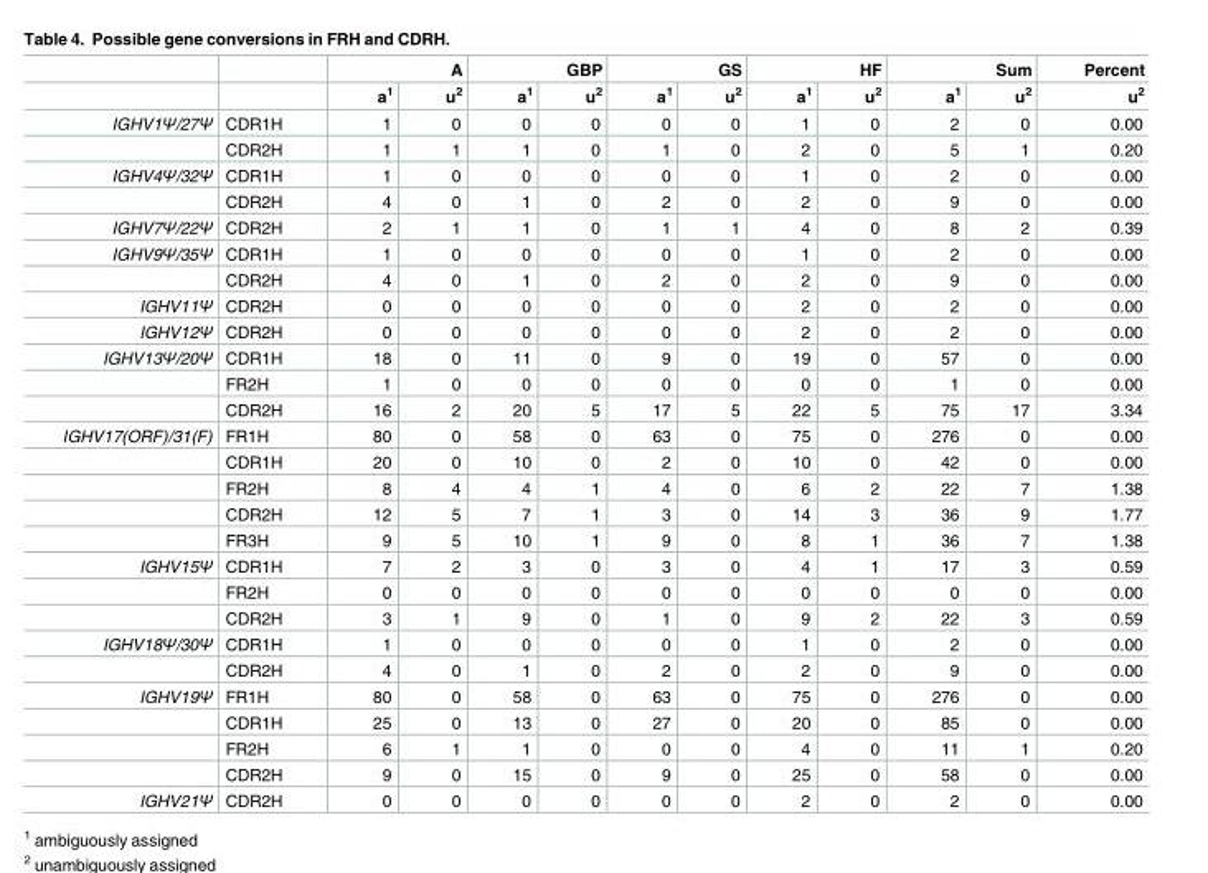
<table><thead><tr><td rowspan="2"></td><td rowspan="2"></td><td colspan="2">A</td><td colspan="2">GBP</td><td colspan="2">GS</td><td colspan="2">HF</td><td colspan="2">Sum</td><td rowspan="2">Percent u<sup>2</sup></td></tr><tr><td>a<sup>1</sup></td><td>u<sup>2</sup></td><td>a<sup>1</sup></td><td>u<sup>2</sup></td><td>a<sup>1</sup></td><td>u<sup>2</sup></td><td>a<sup>1</sup></td><td>u<sup>2</sup></td><td>a<sup>1</sup></td><td>u<sup>2</sup></td></tr></thead><tbody><tr><td rowspan="2">IGHV1Ψ/27Ψ</td><td>CDR1H</td><td>1</td><td>0</td><td>0</td><td>0</td><td>0</td><td>0</td><td>1</td><td>0</td><td>2</td><td>0</td><td>0.00</td></tr><tr><td>CDR2H</td><td>1</td><td>1</td><td>1</td><td>0</td><td>1</td><td>0</td><td>2</td><td>0</td><td>5</td><td>1</td><td>0.20</td></tr><tr><td rowspan="2">IGHV4Ψ/32Ψ</td><td>CDR1H</td><td>1</td><td>0</td><td>0</td><td>0</td><td>0</td><td>0</td><td>1</td><td>0</td><td>2</td><td>0</td><td>0.00</td></tr><tr><td>CDR2H</td><td>4</td><td>0</td><td>1</td><td>0</td><td>2</td><td>0</td><td>2</td><td>0</td><td>9</td><td>0</td><td>0.00</td></tr><tr><td>IGHV7Ψ/22Ψ</td><td>CDR2H</td><td>2</td><td>1</td><td>1</td><td>0</td><td>1</td><td>1</td><td>4</td><td>0</td><td>8</td><td>2</td><td>0.39</td></tr><tr><td rowspan="2">IGHV9Ψ/35Ψ</td><td>CDR1H</td><td>1</td><td>0</td><td>0</td><td>0</td><td>0</td><td>0</td><td>1</td><td>0</td><td>2</td><td>0</td><td>0.00</td></tr><tr><td>CDR2H</td><td>4</td><td>0</td><td>1</td><td>0</td><td>2</td><td>0</td><td>2</td><td>0</td><td>9</td><td>0</td><td>0.00</td></tr><tr><td>IGHV11Ψ</td><td>CDR2H</td><td>0</td><td>0</td><td>0</td><td>0</td><td>0</td><td>0</td><td>2</td><td>0</td><td>2</td><td>0</td><td>0.00</td></tr><tr><td>IGHV12Ψ</td><td>CDR2H</td><td>0</td><td>0</td><td>0</td><td>0</td><td>0</td><td>0</td><td>2</td><td>0</td><td>2</td><td>0</td><td>0.00</td></tr><tr><td rowspan="3">IGHV13Ψ/20Ψ</td><td>CDR1H</td><td>18</td><td>0</td><td>11</td><td>0</td><td>9</td><td>0</td><td>19</td><td>0</td><td>57</td><td>0</td><td>0.00</td></tr><tr><td>FR2H</td><td>1</td><td>0</td><td>0</td><td>0</td><td>0</td><td>0</td><td>0</td><td>0</td><td>1</td><td>0</td><td>0.00</td></tr><tr><td>CDR2H</td><td>16</td><td>2</td><td>20</td><td>5</td><td>17</td><td>5</td><td>22</td><td>5</td><td>75</td><td>17</td><td>3.34</td></tr><tr><td rowspan="5">IGHV17(ORF)/31(F)</td><td>FR1H</td><td>80</td><td>0</td><td>58</td><td>0</td><td>63</td><td>0</td><td>75</td><td>0</td><td>276</td><td>0</td><td>0.00</td></tr><tr><td>CDR1H</td><td>20</td><td>0</td><td>10</td><td>0</td><td>2</td><td>0</td><td>10</td><td>0</td><td>42</td><td>0</td><td>0.00</td></tr><tr><td>FR2H</td><td>8</td><td>4</td><td>4</td><td>1</td><td>4</td><td>0</td><td>6</td><td>2</td><td>22</td><td>7</td><td>1.38</td></tr><tr><td>CDR2H</td><td>12</td><td>5</td><td>7</td><td>1</td><td>3</td><td>0</td><td>14</td><td>3</td><td>36</td><td>9</td><td>1.77</td></tr><tr><td>FR3H</td><td>9</td><td>5</td><td>10</td><td>1</td><td>9</td><td>0</td><td>8</td><td>1</td><td>36</td><td>7</td><td>1.38</td></tr><tr><td rowspan="3">IGHV15Ψ</td><td>CDR1H</td><td>7</td><td>2</td><td>3</td><td>0</td><td>3</td><td>0</td><td>4</td><td>1</td><td>17</td><td>3</td><td>0.59</td></tr><tr><td>FR2H</td><td>0</td><td>0</td><td>0</td><td>0</td><td>0</td><td>0</td><td>0</td><td>0</td><td>0</td><td>0</td><td>0.00</td></tr><tr><td>CDR2H</td><td>3</td><td>1</td><td>9</td><td>0</td><td>1</td><td>0</td><td>9</td><td>2</td><td>22</td><td>3</td><td>0.59</td></tr><tr><td rowspan="2">IGHV18Ψ/30Ψ</td><td>CDR1H</td><td>1</td><td>0</td><td>0</td><td>0</td><td>0</td><td>0</td><td>1</td><td>0</td><td>2</td><td>0</td><td>0.00</td></tr><tr><td>CDR2H</td><td>4</td><td>0</td><td>1</td><td>0</td><td>2</td><td>0</td><td>2</td><td>0</td><td>9</td><td>0</td><td>0.00</td></tr><tr><td rowspan="4">IGHV19Ψ</td><td>FR1H</td><td>80</td><td>0</td><td>58</td><td>0</td><td>63</td><td>0</td><td>75</td><td>0</td><td>276</td><td>0</td><td>0.00</td></tr><tr><td>CDR1H</td><td>25</td><td>0</td><td>13</td><td>0</td><td>27</td><td>0</td><td>20</td><td>0</td><td>85</td><td>0</td><td>0.00</td></tr><tr><td>FR2H</td><td>6</td><td>1</td><td>1</td><td>0</td><td>0</td><td>0</td><td>4</td><td>0</td><td>11</td><td>1</td><td>0.20</td></tr><tr><td>CDR2H</td><td>9</td><td>0</td><td>15</td><td>0</td><td>9</td><td>0</td><td>25</td><td>0</td><td>58</td><td>0</td><td>0.00</td></tr><tr><td>IGHV21Ψ</td><td>CDR2H</td><td>0</td><td>0</td><td>0</td><td>0</td><td>0</td><td>0</td><td>2</td><td>0</td><td>2</td><td>0</td><td>0.00</td></tr></tbody></table>